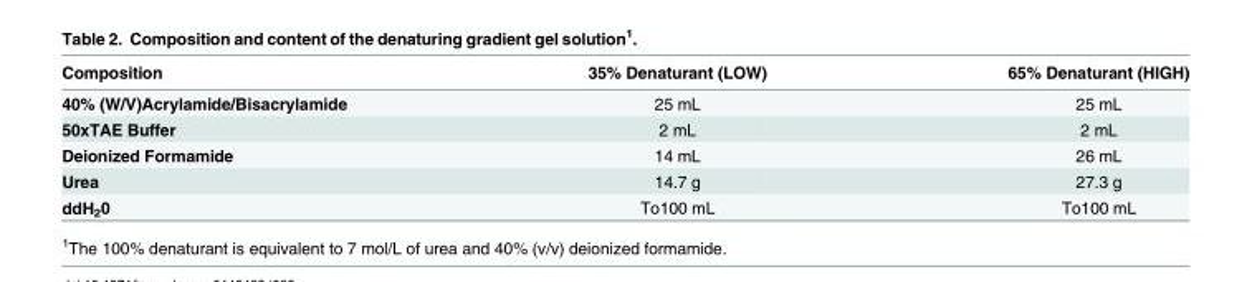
<table><thead><tr><td>Composition</td><td>35% Denaturant (LOW)</td><td>65% Denaturant (HIGH)</td></tr></thead><tbody><tr><td>40% (W/V)Acrylamide/Bisacrylamide</td><td>25 mL</td><td>25 mL</td></tr><tr><td>50xTAE Buffer</td><td>2 mL</td><td>2 mL</td></tr><tr><td>Deionized Formamide</td><td>14 mL</td><td>26 mL</td></tr><tr><td>Urea</td><td>14.7 g</td><td>27.3 g</td></tr><tr><td>ddH<sub>2</sub>0</td><td>To100 mL</td><td>To100 mL</td></tr></tbody></table>